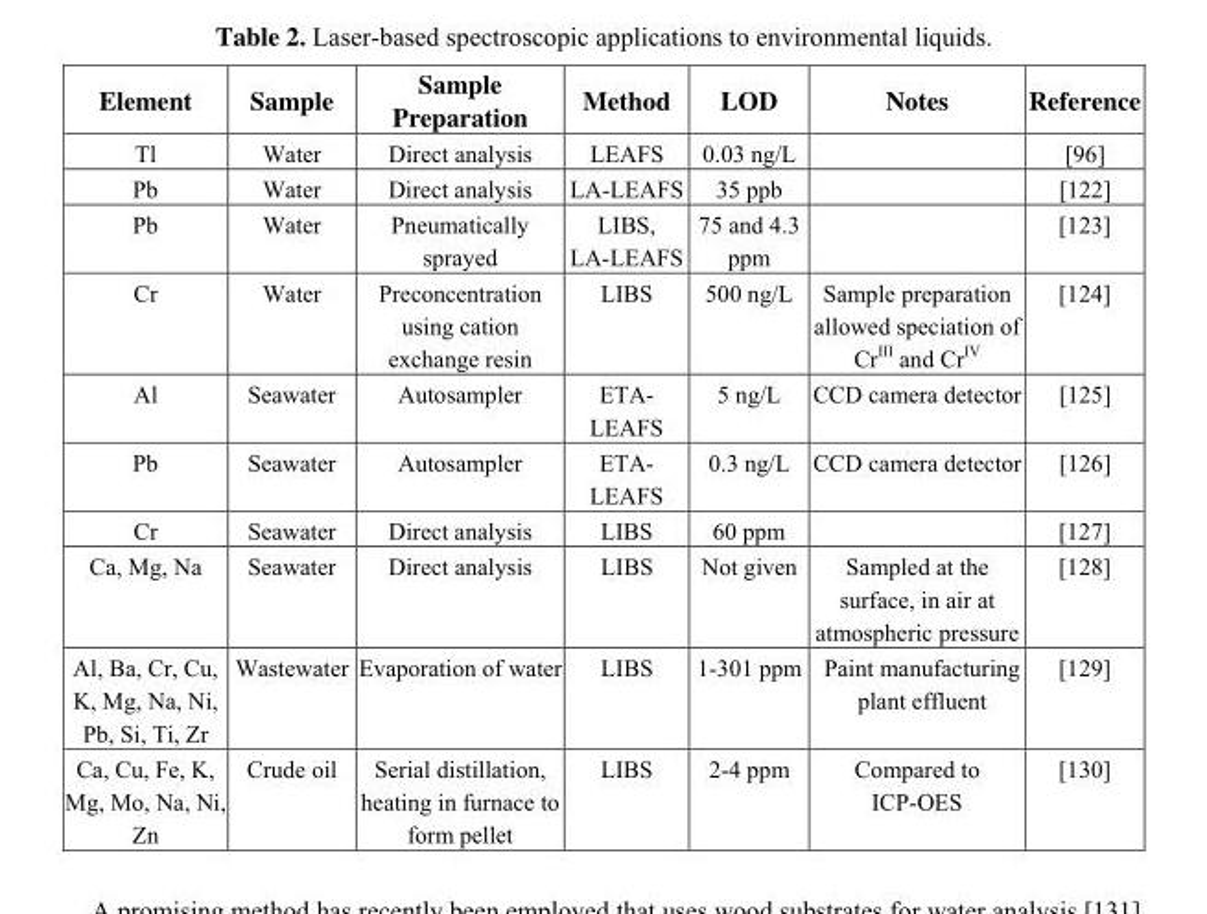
<table><thead><tr><td>Element</td><td>Sample</td><td>Sample Preparation</td><td>Method</td><td>LOD</td><td>Notes</td><td>Reference</td></tr></thead><tbody><tr><td>Tl</td><td>Water</td><td>Direct analysis</td><td>LEAFS</td><td>0.03 ng/L</td><td></td><td>[96]</td></tr><tr><td>Pb</td><td>Water</td><td>Direct analysis</td><td>LA-LEAFS</td><td>35 ppb</td><td></td><td>[122]</td></tr><tr><td>Pb</td><td>Water</td><td>Pneumatically sprayed</td><td>LIBS, LA-LEAFS</td><td>75 and 4.3 ppm</td><td></td><td>[123]</td></tr><tr><td>Cr</td><td>Water</td><td>Preconcentration using cation exchange resin</td><td>LIBS</td><td>500 ng/L</td><td>Sample preparation allowed speciation of Cr<sup>III</sup> and Cr<sup>IV</sup></td><td>[124]</td></tr><tr><td>Al</td><td>Seawater</td><td>Autosampler</td><td>ETA- LEAFS</td><td>5 ng/L</td><td>CCD camera detector</td><td>[125]</td></tr><tr><td>Pb</td><td>Seawater</td><td>Autosampler</td><td>ETA- LEAFS</td><td>0.3 ng/L</td><td>CCD camera detector</td><td>[126]</td></tr><tr><td>Cr</td><td>Seawater</td><td>Direct analysis</td><td>LIBS</td><td>60 ppm</td><td></td><td>[127]</td></tr><tr><td>Ca, Mg, Na</td><td>Seawater</td><td>Direct analysis</td><td>LIBS</td><td>Not given</td><td>Sampled at the surface, in air at atmospheric pressure</td><td>[128]</td></tr><tr><td>Al, Ba, Cr, Cu, K, Mg, Na, Ni, Pb, Si, Ti, Zr</td><td>Wastewater</td><td>Evaporation of water</td><td>LIBS</td><td>1-301 ppm</td><td>Paint manufacturing plant effluent</td><td>[129]</td></tr><tr><td>Ca, Cu, Fe, K, Mg, Mo, Na, Ni, Zn</td><td>Crude oil</td><td>Serial distillation, heating in furnace to form pellet</td><td>LIBS</td><td>2-4 ppm</td><td>Compared to ICP-OES</td><td>[130]</td></tr></tbody></table>